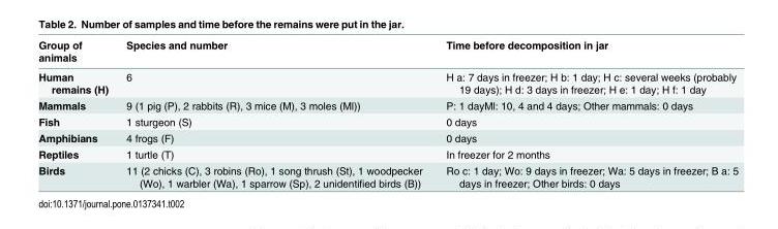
<table><thead><tr><td>Group of animals</td><td>Species and number</td><td>Time before decomposition in jar</td></tr></thead><tbody><tr><td>Human remains (H)</td><td>6</td><td>H a: 7 days in freezer; H b: 1 day; H c: several weeks (probably 19 days); H d: 3 days in freezer; H e: 1 day; H f: 1 day</td></tr><tr><td>Mammals</td><td>9 (1 pig (P), 2 rabbits (R), 3 mice (M), 3 moles (Ml))</td><td>P: 1 dayMl: 10, 4 and 4 days; Other mammals: 0 days</td></tr><tr><td>Fish</td><td>1 sturgeon (S)</td><td>0 days</td></tr><tr><td>Amphibians</td><td>4 frogs (F)</td><td>0 days</td></tr><tr><td>Reptiles</td><td>1 turtle (T)</td><td>In freezer for 2 months</td></tr><tr><td>Birds</td><td>11 (2 chicks (C), 3 robins (Ro), 1 song thrush (St), 1 woodpecker (Wo), 1 warbler (Wa), 1 sparrow (Sp), 2 unidentified birds (B))</td><td>Ro c: 1 day; Wo: 9 days in freezer; Wa: 5 days in freezer; B a: 5 days in freezer; Other birds: 0 days</td></tr></tbody></table>